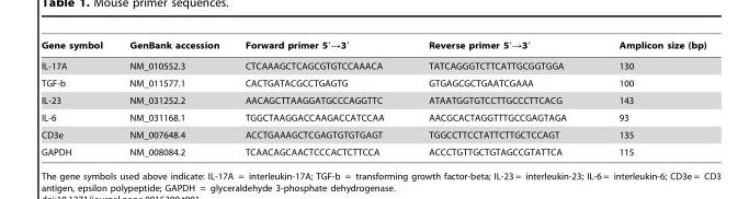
<table><thead><tr><td>Gene symbol</td><td>GenBank accession</td><td>Forward primer 5′→3′</td><td>Reverse primer 5′→3′</td><td>Amplicon size (bp)</td></tr></thead><tbody><tr><td>IL-17A</td><td>NM_010552.3</td><td>CTCAAAGCTCAGCGTGTCCAAACA</td><td>TATCAGGGTCTTCATTGCGGTGGA</td><td>130</td></tr><tr><td>TGF-b</td><td>NM_011577.1</td><td>CACTGATACGCCTGAGTG</td><td>GTGAGCGCTGAATCGAAA</td><td>100</td></tr><tr><td>IL-23</td><td>NM_031252.2</td><td>AACAGCTTAAGGATGCCCAGGTTC</td><td>ATAATGGTGTCCTTGCCCTTCACG</td><td>143</td></tr><tr><td>IL-6</td><td>NM_031168.1</td><td>TGGCTAAGGACCAAGACCATCCAA</td><td>AACGCACTAGGTTTGCCGAGTAGA</td><td>93</td></tr><tr><td>CD3e</td><td>NM_007648.4</td><td>ACCTGAAAGCTCGAGTGTGTGAGT</td><td>TGGCCTTCCTATTCTTGCTCCAGT</td><td>135</td></tr><tr><td>GAPDH</td><td>NM_008084.2</td><td>TCAACAGCAACTCCCACTCTTCCA</td><td>ACCCTGTTGCTGTAGCCGTATTCA</td><td>115</td></tr></tbody></table>